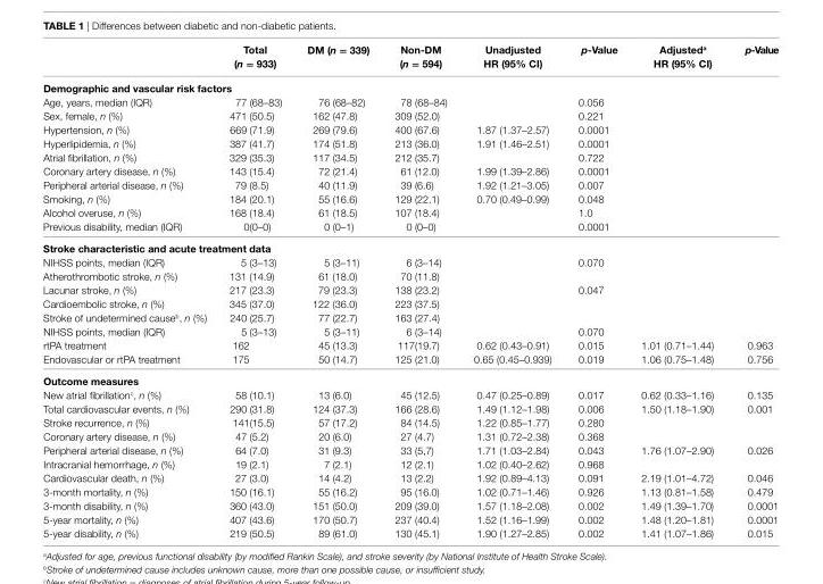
<table><thead><tr><td></td><td>Total (n = 933)</td><td>DM (n = 339)</td><td>non-DM (n = 594)</td><td>Unadjusted hr (95% ci)</td><td>p-Value</td><td>adjusted<sup>a</sup> hr (95% ci)</td><td>p-Value</td></tr></thead><tbody><tr><td colspan="8">Demographic and vascular risk factors</td></tr><tr><td>Age, years, median (IQR)</td><td>77 (68–83)</td><td>76 (68–82)</td><td>78 (68–84)</td><td></td><td>0.056</td><td></td><td></td></tr><tr><td>Sex, female, n (%)</td><td>471 (50.5)</td><td>162 (47.8)</td><td>309 (52.0)</td><td></td><td>0.221</td><td></td><td></td></tr><tr><td>Hypertension, n (%)</td><td>669 (71.9)</td><td>269 (79.6)</td><td>400 (67.6)</td><td>1.87 (1.37–2.57)</td><td>0.0001</td><td></td><td></td></tr><tr><td>Hyperlipidemia, n (%)</td><td>387 (41.7)</td><td>174 (51.8)</td><td>213 (36.0)</td><td>1.91 (1.46–2.51)</td><td>0.0001</td><td></td><td></td></tr><tr><td>Atrial fibrillation, n (%)</td><td>329 (35.3)</td><td>117 (34.5)</td><td>212 (35.7)</td><td></td><td>0.722</td><td></td><td></td></tr><tr><td>Coronary artery disease, n (%)</td><td>143 (15.4)</td><td>72 (21.4)</td><td>61 (12.0)</td><td>1.99 (1.39–2.86)</td><td>0.0001</td><td></td><td></td></tr><tr><td>Peripheral arterial disease, n (%)</td><td>79 (8.5)</td><td>40 (11.9)</td><td>39 (6.6)</td><td>1.92 (1.21–3.05)</td><td>0.007</td><td></td><td></td></tr><tr><td>Smoking, n (%)</td><td>184 (20.1)</td><td>55 (16.6)</td><td>129 (22.1)</td><td>0.70 (0.49–0.99)</td><td>0.048</td><td></td><td></td></tr><tr><td>Alcohol overuse, n (%)</td><td>168 (18.4)</td><td>61 (18.5)</td><td>107 (18.4)</td><td></td><td>1.0</td><td></td><td></td></tr><tr><td>Previous disability, median (IQR)</td><td>0(0–0)</td><td>0 (0–1)</td><td>0 (0–0)</td><td></td><td>0.0001</td><td></td><td></td></tr><tr><td colspan="8">stroke characteristic and acute treatment data</td></tr><tr><td>NIHSS points, median (IQR)</td><td>5 (3–13)</td><td>5 (3–11)</td><td>6 (3–14)</td><td></td><td>0.070</td><td></td><td></td></tr><tr><td>Atherothrombotic stroke, n (%)</td><td>131 (14.9)</td><td>61 (18.0)</td><td>70 (11.8)</td><td></td><td></td><td></td><td></td></tr><tr><td>Lacunar stroke, n (%)</td><td>217 (23.3)</td><td>79 (23.3)</td><td>138 (23.2)</td><td></td><td>0.047</td><td></td><td></td></tr><tr><td>Cardioembolic stroke, n (%)</td><td>345 (37.0)</td><td>122 (36.0)</td><td>223 (37.5)</td><td></td><td></td><td></td><td></td></tr><tr><td>Stroke of undetermined cause<sup>b</sup>, n (%)</td><td>240 (25.7)</td><td>77 (22.7)</td><td>163 (27.4)</td><td></td><td></td><td></td><td></td></tr><tr><td>NIHSS points, median (IQR)</td><td>5 (3–13)</td><td>5 (3–11)</td><td>6 (3–14)</td><td></td><td>0.070</td><td></td><td></td></tr><tr><td>rtPA treatment</td><td>162</td><td>45 (13.3)</td><td>117(19.7)</td><td>0.62 (0.43–0.91)</td><td>0.015</td><td>1.01 (0.71–1.44)</td><td>0.963</td></tr><tr><td>Endovascular or rtPA treatment</td><td>175</td><td>50 (14.7)</td><td>125 (21.0)</td><td>0.65 (0.45–0.939)</td><td>0.019</td><td>1.06 (0.75–1.48)</td><td>0.756</td></tr><tr><td colspan="8">Outcome measures</td></tr><tr><td>New atrial fibrillation<sup>c</sup>, n (%)</td><td>58 (10.1)</td><td>13 (6.0)</td><td>45 (12.5)</td><td>0.47 (0.25–0.89)</td><td>0.017</td><td>0.62 (0.33–1.16)</td><td>0.135</td></tr><tr><td>Total cardiovascular events, n (%)</td><td>290 (31.8)</td><td>124 (37.3)</td><td>166 (28.6)</td><td>1.49 (1.12–1.98)</td><td>0.006</td><td>1.50 (1.18–1.90)</td><td>0.001</td></tr><tr><td>Stroke recurrence, n (%)</td><td>141(15.5)</td><td>57 (17.2)</td><td>84 (14.5)</td><td>1.22 (0.85–1.77)</td><td>0.280</td><td></td><td></td></tr><tr><td>Coronary artery disease, n (%)</td><td>47 (5.2)</td><td>20 (6.0)</td><td>27 (4.7)</td><td>1.31 (0.72–2.38)</td><td>0.368</td><td></td><td></td></tr><tr><td>Peripheral arterial disease, n (%)</td><td>64 (7.0)</td><td>31 (9.3)</td><td>33 (5,7)</td><td>1.71 (1.03–2.84)</td><td>0.043</td><td>1.76 (1.07–2.90)</td><td>0.026</td></tr><tr><td>Intracranial hemorrhage, n (%)</td><td>19 (2.1)</td><td>7 (2.1)</td><td>12 (2.1)</td><td>1.02 (0.40–2.62)</td><td>0.968</td><td></td><td></td></tr><tr><td>Cardiovascular death, n (%)</td><td>27 (3.0)</td><td>14 (4.2)</td><td>13 (2.2)</td><td>1.92 (0.89–4.13)</td><td>0.091</td><td>2.19 (1.01–4.72)</td><td>0.046</td></tr><tr><td>3-month mortality, n (%)</td><td>150 (16.1)</td><td>55 (16.2)</td><td>95 (16.0)</td><td>1.02 (0.71–1.46)</td><td>0.926</td><td>1.13 (0.81–1.58)</td><td>0.479</td></tr><tr><td>3-month disability, n (%)</td><td>360 (43.0)</td><td>151 (50.0)</td><td>209 (39.0)</td><td>1.57 (1.18–2.08)</td><td>0.002</td><td>1.49 (1.39–1.70)</td><td>0.0001</td></tr><tr><td>5-year mortality, n (%)</td><td>407 (43.6)</td><td>170 (50.7)</td><td>237 (40.4)</td><td>1.52 (1.16–1.99)</td><td>0.002</td><td>1.48 (1.20–1.81)</td><td>0.0001</td></tr><tr><td>5-year disability, n (%)</td><td>219 (50.5)</td><td>89 (61.0)</td><td>130 (45.1)</td><td>1.90 (1.27–2.85)</td><td>0.002</td><td>1.41 (1.07–1.86)</td><td>0.015</td></tr></tbody></table>